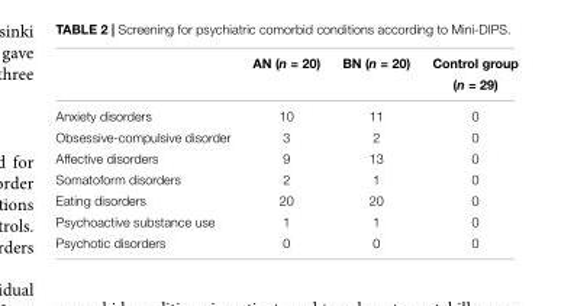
<table><thead><tr><td></td><td>AN (n = 20)</td><td>BN (n = 20)</td><td>Control group (n = 29)</td></tr></thead><tbody><tr><td>Anxiety disorders</td><td>10</td><td>11</td><td>0</td></tr><tr><td>Obsessive-compulsive disorder</td><td>3</td><td>2</td><td>0</td></tr><tr><td>Affective disorders</td><td>9</td><td>13</td><td>0</td></tr><tr><td>Somatoform disorders</td><td>2</td><td>1</td><td>0</td></tr><tr><td>Eating disorders</td><td>20</td><td>20</td><td>0</td></tr><tr><td>Psychoactive substance use</td><td>1</td><td>1</td><td>0</td></tr><tr><td>Psychotic disorders</td><td>0</td><td>0</td><td>0</td></tr></tbody></table>